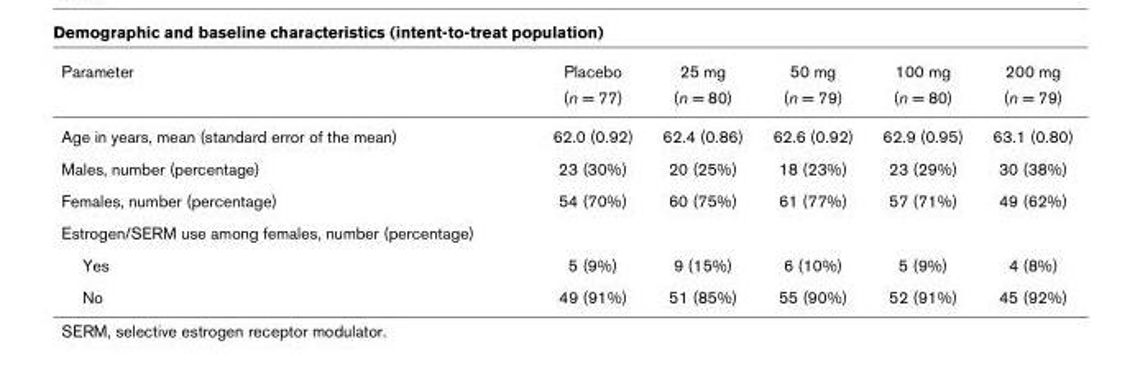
<table><thead><tr><td rowspan="2">Parameter</td><td rowspan="2">Placebo (n = 77)</td><td rowspan="2">25 mg (n = 80)</td><td rowspan="2">50 mg (n = 79)</td><td rowspan="2">100 mg (n = 80)</td><td rowspan="2">200 mg (n = 79)</td></tr><tr></tr></thead><tbody><tr><td>Age in years, mean (standard error of the mean)</td><td>62.0 (0.92)</td><td>62.4 (0.86)</td><td>62.6 (0.92)</td><td>62.9 (0.95)</td><td>63.1 (0.80)</td></tr><tr><td>Males, number (percentage)</td><td>23 (30%)</td><td>20 (25%)</td><td>18 (23%)</td><td>23 (29%)</td><td>30 (38%)</td></tr><tr><td>Females, number (percentage)</td><td>54 (70%)</td><td>60 (75%)</td><td>61 (77%)</td><td>57 (71%)</td><td>49 (62%)</td></tr><tr><td colspan="6">Estrogen/SERM use among females, number (percentage)</td></tr><tr><td>Yes</td><td>5 (9%)</td><td>9 (15%)</td><td>6 (10%)</td><td>5 (9%)</td><td>4 (8%)</td></tr><tr><td>No</td><td>49 (91%)</td><td>51 (85%)</td><td>55 (90%)</td><td>52 (91%)</td><td>45 (92%)</td></tr></tbody></table>